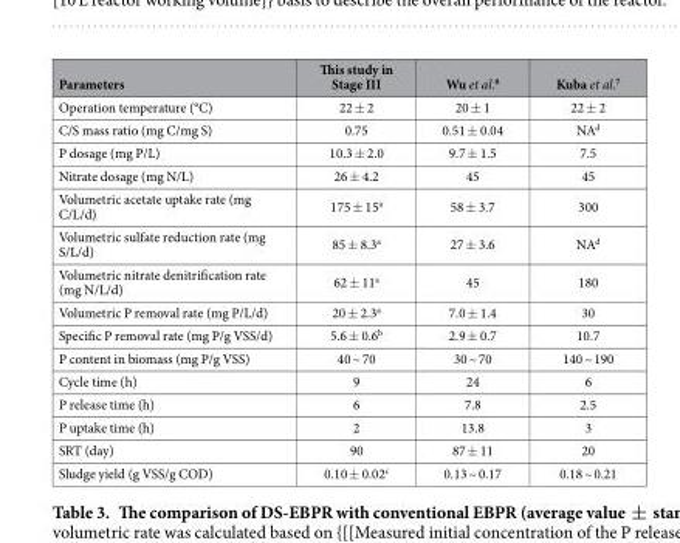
<table><thead><tr><td>Parameters</td><td>This study in Stage III</td><td>Wu et al.<sup>6</sup></td><td>Kuba et al.<sup>7</sup></td></tr></thead><tbody><tr><td>Operation temperature (°C)</td><td>22 ± 2</td><td>20 ± 1</td><td>22 ± 2</td></tr><tr><td>C/S mass ratio (mg C/mg S)</td><td>0.75</td><td>0.51 ± 0.04</td><td>NA<sup>d</sup></td></tr><tr><td>P dosage (mg P/L)</td><td>10.3 ± 2.0</td><td>9.7 ± 1.5</td><td>7.5</td></tr><tr><td>Nitrate dosage (mg N/L)</td><td>26 ± 4.2</td><td>45</td><td>45</td></tr><tr><td>Volumetric acetate uptake rate (mg C/L/d)</td><td>175 ± 15<sup>a</sup></td><td>58 ± 3.7</td><td>300</td></tr><tr><td>Volumetric sulfate reduction rate (mg S/L/d)</td><td>85 ± 8.3<sup>a</sup></td><td>27 ± 3.6</td><td>NA<sup>d</sup></td></tr><tr><td>Volumetric nitrate denitrification rate (mg N/L/d)</td><td>62 ± 11<sup>a</sup></td><td>45</td><td>180</td></tr><tr><td>Volumetric P removal rate (mg P/L/d)</td><td>20 ± 2.3<sup>a</sup></td><td>7.0 ± 1.4</td><td>30</td></tr><tr><td>Specific P removal rate (mg P/g VSS/d)</td><td>5.6 ± 0.6<sup>b</sup></td><td>2.9 ± 0.7</td><td>10.7</td></tr><tr><td>P content in biomass (mg P/g VSS)</td><td>40 ~ 70</td><td>30 ~ 70</td><td>140 ~ 190</td></tr><tr><td>Cycle time (h)</td><td>9</td><td>24</td><td>6</td></tr><tr><td>P release time (h)</td><td>6</td><td>7.8</td><td>2.5</td></tr><tr><td>P uptake time (h)</td><td>2</td><td>13.8</td><td>3</td></tr><tr><td>SRT (day)</td><td>90</td><td>87 ± 11</td><td>20</td></tr><tr><td>Sludge yield (g VSS/g COD)</td><td>0.10 ± 0.02<sup>c</sup></td><td>0.13 ~ 0.17</td><td>0.18 ~ 0.21</td></tr></tbody></table>